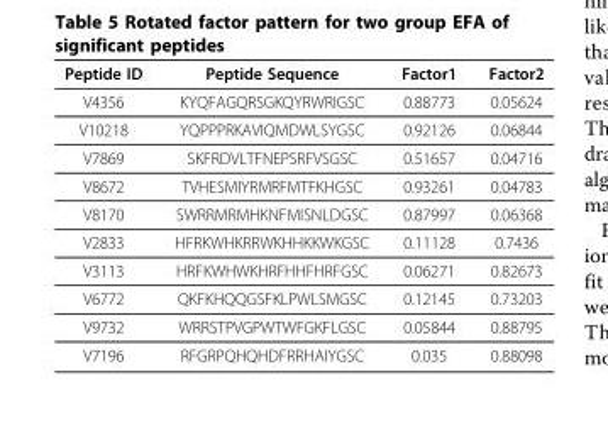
<table><thead><tr><td>Peptide ID</td><td>Peptide Sequence</td><td>Factor1</td><td>Factor2</td></tr></thead><tbody><tr><td>V4356</td><td>KYQFAGQRSGKQYRWRIGSC</td><td>0.88773</td><td>0.05624</td></tr><tr><td>V10218</td><td>YQPPPRKAVIQMDWLSYGSC</td><td>0.92126</td><td>0.06844</td></tr><tr><td>V7869</td><td>SKFRDVLTFNEPSRFVSGSC</td><td>0.51657</td><td>0.04716</td></tr><tr><td>V8672</td><td>TVHESMIYRMRFMTFKHGSC</td><td>0.93261</td><td>0.04783</td></tr><tr><td>V8170</td><td>SWRRMRMHKNFMISNLDGSC</td><td>0.87997</td><td>0.06368</td></tr><tr><td>V2833</td><td>HFRKWHKRRWKHHKKWKGSC</td><td>0.11128</td><td>0.7436</td></tr><tr><td>V3113</td><td>HRFKWHWKHRFHHFHRFGSC</td><td>0.06271</td><td>0.82673</td></tr><tr><td>V6772</td><td>QKFKHQQGSFKLPWLSMGSC</td><td>0.12145</td><td>0.73203</td></tr><tr><td>V9732</td><td>WRRSTPVGPWTWFGKFLGSC</td><td>0.05844</td><td>0.88795</td></tr><tr><td>V7196</td><td>RFGRPQHQHDFRRHAIYGSC</td><td>0.035</td><td>0.88098</td></tr></tbody></table>